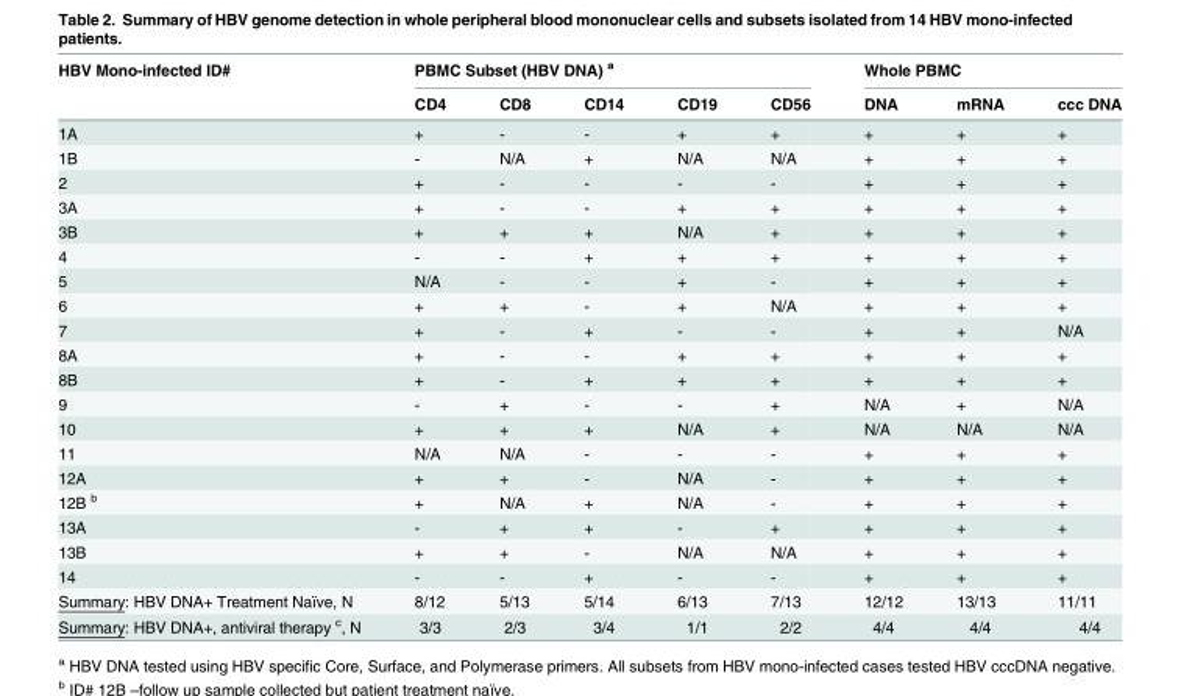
<table><thead><tr><td rowspan="2">HBV Mono-infected ID#</td><td colspan="5">PBMC Subset (HBV DNA) <sup>a</sup></td><td colspan="3">Whole PBMC</td></tr><tr><td>CD4</td><td>CD8</td><td>CD14</td><td>CD19</td><td>CD56</td><td>DNA</td><td>mRNA</td><td>ccc DNA</td></tr></thead><tbody><tr><td>1A</td><td>+</td><td>-</td><td>-</td><td>+</td><td>+</td><td>+</td><td>+</td><td>+</td></tr><tr><td>1B</td><td>-</td><td>N/A</td><td>+</td><td>N/A</td><td>N/A</td><td>+</td><td>+</td><td>+</td></tr><tr><td>2</td><td>+</td><td>-</td><td>-</td><td>-</td><td>-</td><td>+</td><td>+</td><td>+</td></tr><tr><td>3A</td><td>+</td><td>-</td><td>-</td><td>+</td><td>+</td><td>+</td><td>+</td><td>+</td></tr><tr><td>3B</td><td>+</td><td>+</td><td>+</td><td>N/A</td><td>+</td><td>+</td><td>+</td><td>+</td></tr><tr><td>4</td><td>-</td><td>-</td><td>+</td><td>+</td><td>+</td><td>+</td><td>+</td><td>+</td></tr><tr><td>5</td><td>N/A</td><td>-</td><td>-</td><td>+</td><td>-</td><td>+</td><td>+</td><td>+</td></tr><tr><td>6</td><td>+</td><td>+</td><td>-</td><td>+</td><td>N/A</td><td>+</td><td>+</td><td>+</td></tr><tr><td>7</td><td>+</td><td>-</td><td>+</td><td>-</td><td>-</td><td>+</td><td>+</td><td>N/A</td></tr><tr><td>8A</td><td>+</td><td>-</td><td>-</td><td>+</td><td>+</td><td>+</td><td>+</td><td>+</td></tr><tr><td>8B</td><td>+</td><td>-</td><td>+</td><td>+</td><td>+</td><td>+</td><td>+</td><td>+</td></tr><tr><td>9</td><td>-</td><td>+</td><td>-</td><td>-</td><td>+</td><td>N/A</td><td>+</td><td>N/A</td></tr><tr><td>10</td><td>+</td><td>+</td><td>+</td><td>N/A</td><td>+</td><td>N/A</td><td>N/A</td><td>N/A</td></tr><tr><td>11</td><td>N/A</td><td>N/A</td><td>-</td><td>-</td><td>-</td><td>+</td><td>+</td><td>+</td></tr><tr><td>12A</td><td>+</td><td>+</td><td>-</td><td>N/A</td><td>-</td><td>+</td><td>+</td><td>+</td></tr><tr><td>12B <sup>b</sup></td><td>+</td><td>N/A</td><td>+</td><td>N/A</td><td>-</td><td>+</td><td>+</td><td>+</td></tr><tr><td>13A</td><td>-</td><td>+</td><td>+</td><td>-</td><td>+</td><td>+</td><td>+</td><td>+</td></tr><tr><td>13B</td><td>+</td><td>+</td><td>-</td><td>N/A</td><td>N/A</td><td>+</td><td>+</td><td>+</td></tr><tr><td>14</td><td>-</td><td>-</td><td>+</td><td>-</td><td>-</td><td>+</td><td>+</td><td>+</td></tr><tr><td>Summary: HBV DNA+ Treatment Naïve, N</td><td>8/12</td><td>5/13</td><td>5/14</td><td>6/13</td><td>7/13</td><td>12/12</td><td>13/13</td><td>11/11</td></tr><tr><td>Summary: HBV DNA+, antiviral therapy <sup>c</sup>, N</td><td>3/3</td><td>2/3</td><td>3/4</td><td>1/1</td><td>2/2</td><td>4/4</td><td>4/4</td><td>4/4</td></tr></tbody></table>